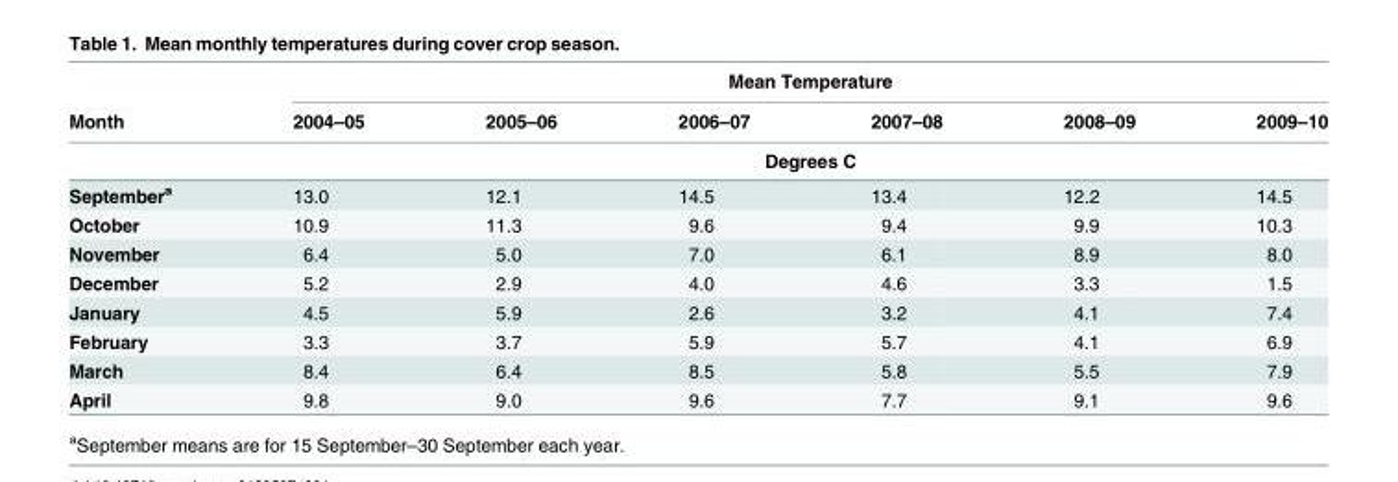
<table><thead><tr><td rowspan="3">Month</td><td colspan="6">Mean Temperature</td></tr><tr><td>2004–05</td><td>2005–06</td><td>2006–07</td><td>2007–08</td><td>2008–09</td><td>2009–10</td></tr><tr><td colspan="6">Degrees C</td></tr></thead><tbody><tr><td>September<sup>a</sup></td><td>13.0</td><td>12.1</td><td>14.5</td><td>13.4</td><td>12.2</td><td>14.5</td></tr><tr><td>October</td><td>10.9</td><td>11.3</td><td>9.6</td><td>9.4</td><td>9.9</td><td>10.3</td></tr><tr><td>November</td><td>6.4</td><td>5.0</td><td>7.0</td><td>6.1</td><td>8.9</td><td>8.0</td></tr><tr><td>December</td><td>5.2</td><td>2.9</td><td>4.0</td><td>4.6</td><td>3.3</td><td>1.5</td></tr><tr><td>January</td><td>4.5</td><td>5.9</td><td>2.6</td><td>3.2</td><td>4.1</td><td>7.4</td></tr><tr><td>February</td><td>3.3</td><td>3.7</td><td>5.9</td><td>5.7</td><td>4.1</td><td>6.9</td></tr><tr><td>March</td><td>8.4</td><td>6.4</td><td>8.5</td><td>5.8</td><td>5.5</td><td>7.9</td></tr><tr><td>April</td><td>9.8</td><td>9.0</td><td>9.6</td><td>7.7</td><td>9.1</td><td>9.6</td></tr></tbody></table>